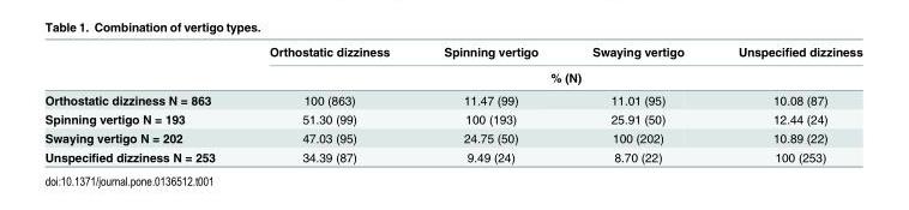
<table><thead><tr><td rowspan="2"></td><td>Orthostatic dizziness</td><td>Spinning vertigo</td><td>Swaying vertigo</td><td>Unspecified dizziness</td></tr><tr><td colspan="4">% (N)</td></tr></thead><tbody><tr><td>Orthostatic dizziness N = 863</td><td>100 (863)</td><td>11.47 (99)</td><td>11.01 (95)</td><td>10.08 (87)</td></tr><tr><td>Spinning vertigo N = 193</td><td>51.30 (99)</td><td>100 (193)</td><td>25.91 (50)</td><td>12.44 (24)</td></tr><tr><td>Swaying vertigo N = 202</td><td>47.03 (95)</td><td>24.75 (50)</td><td>100 (202)</td><td>10.89 (22)</td></tr><tr><td>Unspecified dizziness N = 253</td><td>34.39 (87)</td><td>9.49 (24)</td><td>8.70 (22)</td><td>100 (253)</td></tr></tbody></table>